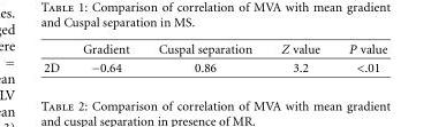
<table><thead><tr><td></td><td>Gradient</td><td>Cuspal separation</td><td>Z value</td><td>P value</td></tr></thead><tbody><tr><td>2D</td><td>−0.64</td><td>0.86</td><td>3.2</td><td>&lt;.01</td></tr></tbody></table>